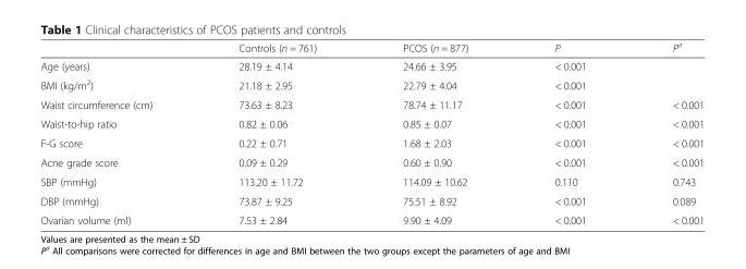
<table><thead><tr><td></td><td>Controls (n = 761)</td><td>PCOS (n = 877)</td><td>P</td><td>P<sup>a</sup></td></tr></thead><tbody><tr><td>Age (years)</td><td>28.19 ± 4.14</td><td>24.66 ± 3.95</td><td>&lt; 0.001</td><td></td></tr><tr><td>BMI (kg/m<sup>2</sup>)</td><td>21.18 ± 2.95</td><td>22.79 ± 4.04</td><td>&lt; 0.001</td><td></td></tr><tr><td>Waist circumference (cm)</td><td>73.63 ± 8.23</td><td>78.74 ± 11.17</td><td>&lt; 0.001</td><td>&lt; 0.001</td></tr><tr><td>Waist-to-hip ratio</td><td>0.82 ± 0.06</td><td>0.85 ± 0.07</td><td>&lt; 0.001</td><td>&lt; 0.001</td></tr><tr><td>F-G score</td><td>0.22 ± 0.71</td><td>1.68 ± 2.03</td><td>&lt; 0.001</td><td>&lt; 0.001</td></tr><tr><td>Acne grade score</td><td>0.09 ± 0.29</td><td>0.60 ± 0.90</td><td>&lt; 0.001</td><td>&lt; 0.001</td></tr><tr><td>SBP (mmHg)</td><td>113.20 ± 11.72</td><td>114.09 ± 10.62</td><td>0.110</td><td>0.743</td></tr><tr><td>DBP (mmHg)</td><td>73.87 ± 9.25</td><td>75.51 ± 8.92</td><td>&lt; 0.001</td><td>0.089</td></tr><tr><td>Ovarian volume (ml)</td><td>7.53 ± 2.84</td><td>9.90 ± 4.09</td><td>&lt; 0.001</td><td>&lt; 0.001</td></tr></tbody></table>